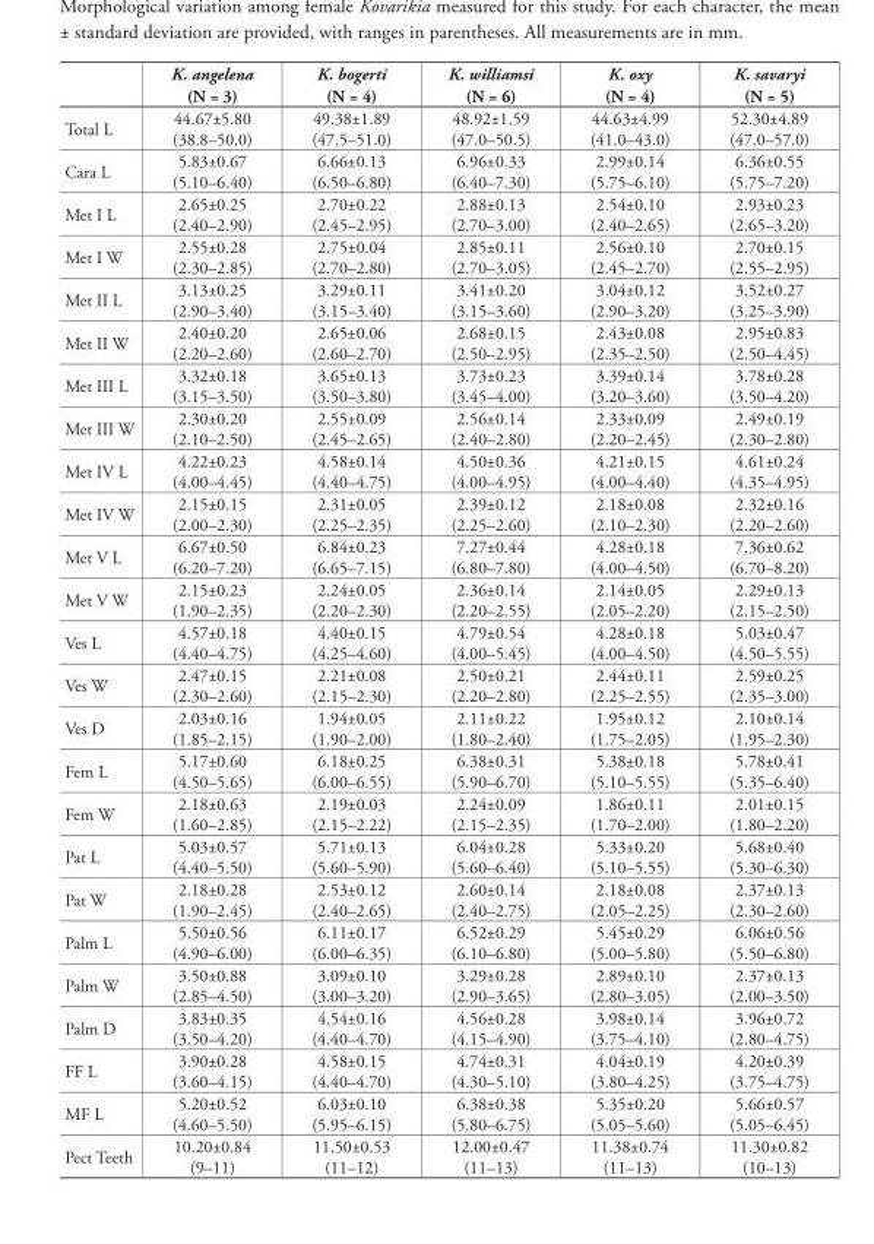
<table><thead><tr><td rowspan="2"></td><td rowspan="2">K. angelena (N = 3)</td><td rowspan="2">K. bogerti (N = 4)</td><td rowspan="2">K. williamsi (N = 6)</td><td rowspan="2">K. oxy (N = 4)</td><td rowspan="2">K. savaryi (N = 5)</td></tr><tr></tr></thead><tbody><tr><td>Total L</td><td>44.67±5.80 (38.8–50.0)</td><td>49.38±1.89 (47.5–51.0)</td><td>48.92±1.59 (47.0–50.5)</td><td>44.63±4.99 (41.0–43.0)</td><td>52.30±4.89 (47.0–57.0)</td></tr><tr><td>Cara L</td><td>5.83±0.67 (5.10–6.40)</td><td>6.66±0.13 (6.50–6.80)</td><td>6.96±0.33 (6.40–7.30)</td><td>2.99±0.14 (5.75–6.10)</td><td>6.36±0.55 (5.75–7.20)</td></tr><tr><td>Met I L</td><td>2.65±0.25 (2.40–2.90)</td><td>2.70±0.22 (2.45–2.95)</td><td>2.88±0.13 (2.70–3.00)</td><td>2.54±0.10 (2.40–2.65)</td><td>2.93±0.23 (2.65–3.20)</td></tr><tr><td>Met I W</td><td>2.55±0.28 (2.30–2.85)</td><td>2.75±0.04 (2.70–2.80)</td><td>2.85±0.11 (2.70–3.05)</td><td>2.56±0.10 (2.45–2.70)</td><td>2.70±0.15 (2.55–2.95)</td></tr><tr><td>Met II L</td><td>3.13±0.25 (2.90–3.40)</td><td>3.29±0.11 (3.15–3.40)</td><td>3.41±0.20 (3.15–3.60)</td><td>3.04±0.12 (2.90–3.20)</td><td>3.52±0.27 (3.25–3.90)</td></tr><tr><td>Met II W</td><td>2.40±0.20 (2.20–2.60)</td><td>2.65±0.06 (2.60–2.70)</td><td>2.68±0.15 (2.50–2.95)</td><td>2.43±0.08 (2.35–2.50)</td><td>2.95±0.83 (2.50–4.45)</td></tr><tr><td>Met III L</td><td>3.32±0.18 (3.15–3.50)</td><td>3.65±0.13 (3.50–3.80)</td><td>3.73±0.23 (3.45–4.00)</td><td>3.39±0.14 (3.20–3.60)</td><td>3.78±0.28 (3.50–4.20)</td></tr><tr><td>Met III W</td><td>2.30±0.20 (2.10–2.50)</td><td>2.55±0.09 (2.45–2.65)</td><td>2.56±0.14 (2.40–2.80)</td><td>2.33±0.09 (2.20–2.45)</td><td>2.49±0.19 (2.30–2.80)</td></tr><tr><td>Met IV L</td><td>4.22±0.23 (4.00–4.45)</td><td>4.58±0.14 (4.40–4.75)</td><td>4.50±0.36 (4.00–4.95)</td><td>4.21±0.15 (4.00–4.40)</td><td>4.61±0.24 (4.35–4.95)</td></tr><tr><td>Met IV W</td><td>2.15±0.15 (2.00–2.30)</td><td>2.31±0.05 (2.25–2.35)</td><td>2.39±0.12 (2.25–2.60)</td><td>2.18±0.08 (2.10–2.30)</td><td>2.32±0.16 (2.20–2.60)</td></tr><tr><td>Met V L</td><td>6.67±0.50 (6.20–7.20)</td><td>6.84±0.23 (6.65–7.15)</td><td>7.27±0.44 (6.80–7.80)</td><td>4.28±0.18 (4.00–4.50)</td><td>7.36±0.62 (6.70–8.20)</td></tr><tr><td>Met V W</td><td>2.15±0.23 (1.90–2.35)</td><td>2.24±0.05 (2.20–2.30)</td><td>2.36±0.14 (2.20–2.55)</td><td>2.14±0.05 (2.05–2.20)</td><td>2.29±0.13 (2.15–2.50)</td></tr><tr><td>Ves L</td><td>4.57±0.18 (4.40–4.75)</td><td>4.40±0.15 (4.25–4.60)</td><td>4.79±0.54 (4.00–5.45)</td><td>4.28±0.18 (4.00–4.50)</td><td>5.03±0.47 (4.50–5.55)</td></tr><tr><td>Ves W</td><td>2.47±0.15 (2.30–2.60)</td><td>2.21±0.08 (2.15–2.30)</td><td>2.50±0.21 (2.20–2.80)</td><td>2.44±0.11 (2.25–2.55)</td><td>2.59±0.25 (2.35–3.00)</td></tr><tr><td>Ves D</td><td>2.03±0.16 (1.85–2.15)</td><td>1.94±0.05 (1.90–2.00)</td><td>2.11±0.22 (1.80–2.40)</td><td>1.95±0.12 (1.75–2.05)</td><td>2.10±0.14 (1.95–2.30)</td></tr><tr><td>Fem L</td><td>5.17±0.60 (4.50–5.65)</td><td>6.18±0.25 (6.00–6.55)</td><td>6.38±0.31 (5.90–6.70)</td><td>5.38±0.18 (5.10–5.55)</td><td>5.78±0.41 (5.35–6.40)</td></tr><tr><td>Fem W</td><td>2.18±0.63 (1.60–2.85)</td><td>2.19±0.03 (2.15–2.22)</td><td>2.24±0.09 (2.15–2.35)</td><td>1.86±0.11 (1.70–2.00)</td><td>2.01±0.15 (1.80–2.20)</td></tr><tr><td>Pat L</td><td>5.03±0.57 (4.40–5.50)</td><td>5.71±0.13 (5.60–5.90)</td><td>6.04±0.28 (5.60–6.40)</td><td>5.33±0.20 (5.10–5.55)</td><td>5.68±0.40 (5.30–6.30)</td></tr><tr><td>Pat W</td><td>2.18±0.28 (1.90–2.45)</td><td>2.53±0.12 (2.40–2.65)</td><td>2.60±0.14 (2.40–2.75)</td><td>2.18±0.08 (2.05–2.25)</td><td>2.37±0.13 (2.30–2.60)</td></tr><tr><td>Palm L</td><td>5.50±0.56 (4.90–6.00)</td><td>6.11±0.17 (6.00–6.35)</td><td>6.52±0.29 (6.10–6.80)</td><td>5.45±0.29 (5.00–5.80)</td><td>6.06±0.56 (5.50–6.80)</td></tr><tr><td>Palm W</td><td>3.50±0.88 (2.85–4.50)</td><td>3.09±0.10 (3.00–3.20)</td><td>3.29±0.28 (2.90–3.65)</td><td>2.89±0.10 (2.80–3.05)</td><td>2.37±0.13 (2.00–3.50)</td></tr><tr><td>Palm D</td><td>3.83±0.35 (3.50–4.20)</td><td>4.54±0.16 (4.40–4.70)</td><td>4.56±0.28 (4.15–4.90)</td><td>3.98±0.14 (3.75–4.10)</td><td>3.96±0.72 (2.80–4.75)</td></tr><tr><td>FF L</td><td>3.90±0.28 (3.60–4.15)</td><td>4.58±0.15 (4.40–4.70)</td><td>4.74±0.31 (4.30–5.10)</td><td>4.04±0.19 (3.80–4.25)</td><td>4.20±0.39 (3.75–4.75)</td></tr><tr><td>MF L</td><td>5.20±0.52 (4.60–5.50)</td><td>6.03±0.10 (5.95–6.15)</td><td>6.38±0.38 (5.80–6.75)</td><td>5.35±0.20 (5.05–5.60)</td><td>5.66±0.57 (5.05–6.45)</td></tr><tr><td>Pect Teeth</td><td>10.20±0.84 (9–11)</td><td>11.50±0.53 (11–12)</td><td>12.00±0.47 (11–13)</td><td>11.38±0.74 (11–13)</td><td>11.30±0.82 (10–13)</td></tr></tbody></table>